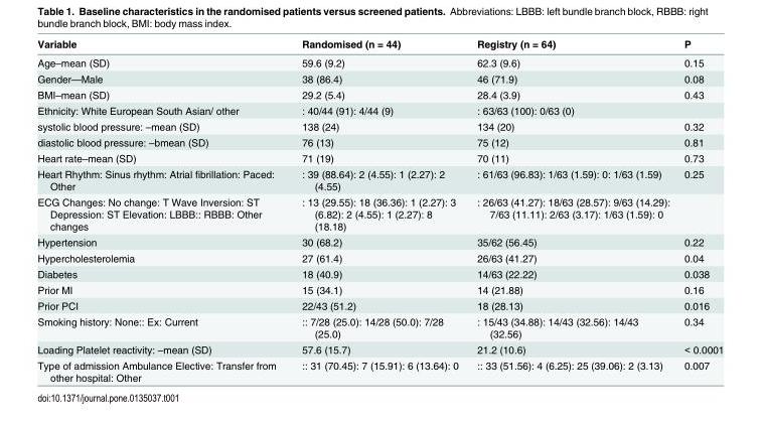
<table><thead><tr><td>Variable</td><td>Randomised (n = 44)</td><td>Registry (n = 64)</td><td>P</td></tr></thead><tbody><tr><td>Age–mean (SD)</td><td>59.6 (9.2)</td><td>62.3 (9.6)</td><td>0.15</td></tr><tr><td>Gender—Male</td><td>38 (86.4)</td><td>46 (71.9)</td><td>0.08</td></tr><tr><td>BMI–mean (SD)</td><td>29.2 (5.4)</td><td>28.4 (3.9)</td><td>0.43</td></tr><tr><td>Ethnicity: White European South Asian/ other</td><td>: 40/44 (91): 4/44 (9)</td><td>: 63/63 (100): 0/63 (0)</td><td></td></tr><tr><td>systolic blood pressure: –mean (SD)</td><td>138 (24)</td><td>134 (20)</td><td>0.32</td></tr><tr><td>diastolic blood pressure: –bmean (SD)</td><td>76 (13)</td><td>75 (12)</td><td>0.81</td></tr><tr><td>Heart rate–mean (SD)</td><td>71 (19)</td><td>70 (11)</td><td>0.73</td></tr><tr><td>Heart Rhythm: Sinus rhythm: Atrial fibrillation: Paced: Other</td><td>: 39 (88.64): 2 (4.55): 1 (2.27): 2 (4.55)</td><td>: 61/63 (96.83): 1/63 (1.59): 0: 1/63 (1.59)</td><td>0.25</td></tr><tr><td>ECG Changes: No change: T Wave Inversion: ST Depression: ST Elevation: LBBB:: RBBB: Other changes</td><td>: 13 (29.55): 18 (36.36): 1 (2.27): 3 (6.82): 2 (4.55): 1 (2.27): 8 (18.18)</td><td>: 26/63 (41.27): 18/63 (28.57): 9/63 (14.29): 7/63 (11.11): 2/63 (3.17): 1/63 (1.59): 0</td><td></td></tr><tr><td>Hypertension</td><td>30 (68.2)</td><td>35/62 (56.45)</td><td>0.22</td></tr><tr><td>Hypercholesterolemia</td><td>27 (61.4)</td><td>26/63 (41.27)</td><td>0.04</td></tr><tr><td>Diabetes</td><td>18 (40.9)</td><td>14/63 (22.22)</td><td>0.038</td></tr><tr><td>Prior MI</td><td>15 (34.1)</td><td>14 (21.88)</td><td>0.16</td></tr><tr><td>Prior PCI</td><td>22/43 (51.2)</td><td>18 (28.13)</td><td>0.016</td></tr><tr><td>Smoking history: None:: Ex: Current</td><td>:: 7/28 (25.0): 14/28 (50.0): 7/28 (25.0)</td><td>: 15/43 (34.88): 14/43 (32.56): 14/43 (32.56)</td><td>0.34</td></tr><tr><td>Loading Platelet reactivity: –mean (SD)</td><td>57.6 (15.7)</td><td>21.2 (10.6)</td><td>&lt; 0.0001</td></tr><tr><td>Type of admission Ambulance Elective: Transfer from other hospital: Other</td><td>:: 31 (70.45): 7 (15.91): 6 (13.64): 0</td><td>:: 33 (51.56): 4 (6.25): 25 (39.06): 2 (3.13)</td><td>0.007</td></tr></tbody></table>